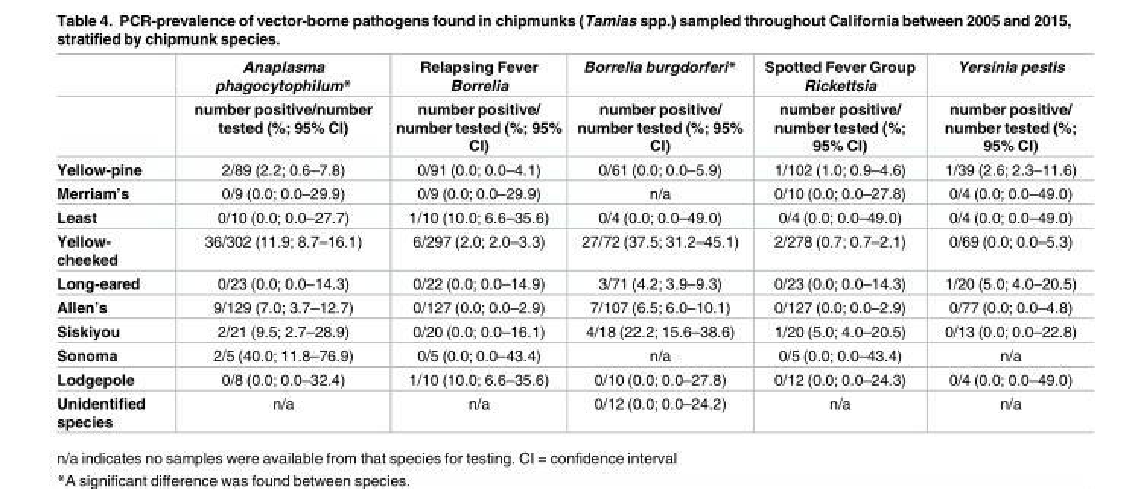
<table><thead><tr><td rowspan="2"></td><td rowspan="2">Anaplasma phagocytophilum* number positive/number tested (%; 95% CI)</td><td rowspan="2">Relapsing Fever Borrelia number positive/ number tested (%; 95% CI)</td><td rowspan="2">Borrelia burgdorferi* number positive/ number tested (%; 95% CI)</td><td rowspan="2">Spotted Fever Group Rickettsia number positive/ number tested (%; 95% CI)</td><td rowspan="2">Yersinia pestis number positive/ number tested (%; 95% CI)</td></tr><tr></tr></thead><tbody><tr><td>Yellow-pine</td><td>2/89 (2.2; 0.6–7.8)</td><td>0/91 (0.0; 0.0–4.1)</td><td>0/61 (0.0; 0.0–5.9)</td><td>1/102 (1.0; 0.9–4.6)</td><td>1/39 (2.6; 2.3–11.6)</td></tr><tr><td>Merriam’s</td><td>0/9 (0.0; 0.0–29.9)</td><td>0/9 (0.0; 0.0–29.9)</td><td>n/a</td><td>0/10 (0.0; 0.0–27.8)</td><td>0/4 (0.0; 0.0–49.0)</td></tr><tr><td>Least</td><td>0/10 (0.0; 0.0–27.7)</td><td>1/10 (10.0; 6.6–35.6)</td><td>0/4 (0.0; 0.0–49.0)</td><td>0/4 (0.0; 0.0–49.0)</td><td>0/4 (0.0; 0.0–49.0)</td></tr><tr><td>Yellow- cheeked</td><td>36/302 (11.9; 8.7–16.1)</td><td>6/297 (2.0; 2.0–3.3)</td><td>27/72 (37.5; 31.2–45.1)</td><td>2/278 (0.7; 0.7–2.1)</td><td>0/69 (0.0; 0.0–5.3)</td></tr><tr><td>Long-eared</td><td>0/23 (0.0; 0.0–14.3)</td><td>0/22 (0.0; 0.0–14.9)</td><td>3/71 (4.2; 3.9–9.3)</td><td>0/23 (0.0; 0.0–14.3)</td><td>1/20 (5.0; 4.0–20.5)</td></tr><tr><td>Allen’s</td><td>9/129 (7.0; 3.7–12.7)</td><td>0/127 (0.0; 0.0–2.9)</td><td>7/107 (6.5; 6.0–10.1)</td><td>0/127 (0.0; 0.0–2.9)</td><td>0/77 (0.0; 0.0–4.8)</td></tr><tr><td>Siskiyou</td><td>2/21 (9.5; 2.7–28.9)</td><td>0/20 (0.0; 0.0–16.1)</td><td>4/18 (22.2; 15.6–38.6)</td><td>1/20 (5.0; 4.0–20.5)</td><td>0/13 (0.0; 0.0–22.8)</td></tr><tr><td>Sonoma</td><td>2/5 (40.0; 11.8–76.9)</td><td>0/5 (0.0; 0.0–43.4)</td><td>n/a</td><td>0/5 (0.0; 0.0–43.4)</td><td>n/a</td></tr><tr><td>Lodgepole</td><td>0/8 (0.0; 0.0–32.4)</td><td>1/10 (10.0; 6.6–35.6)</td><td>0/10 (0.0; 0.0–27.8)</td><td>0/12 (0.0; 0.0–24.3)</td><td>0/4 (0.0; 0.0–49.0)</td></tr><tr><td>Unidentified species</td><td>n/a</td><td>n/a</td><td>0/12 (0.0; 0.0–24.2)</td><td>n/a</td><td>n/a</td></tr></tbody></table>